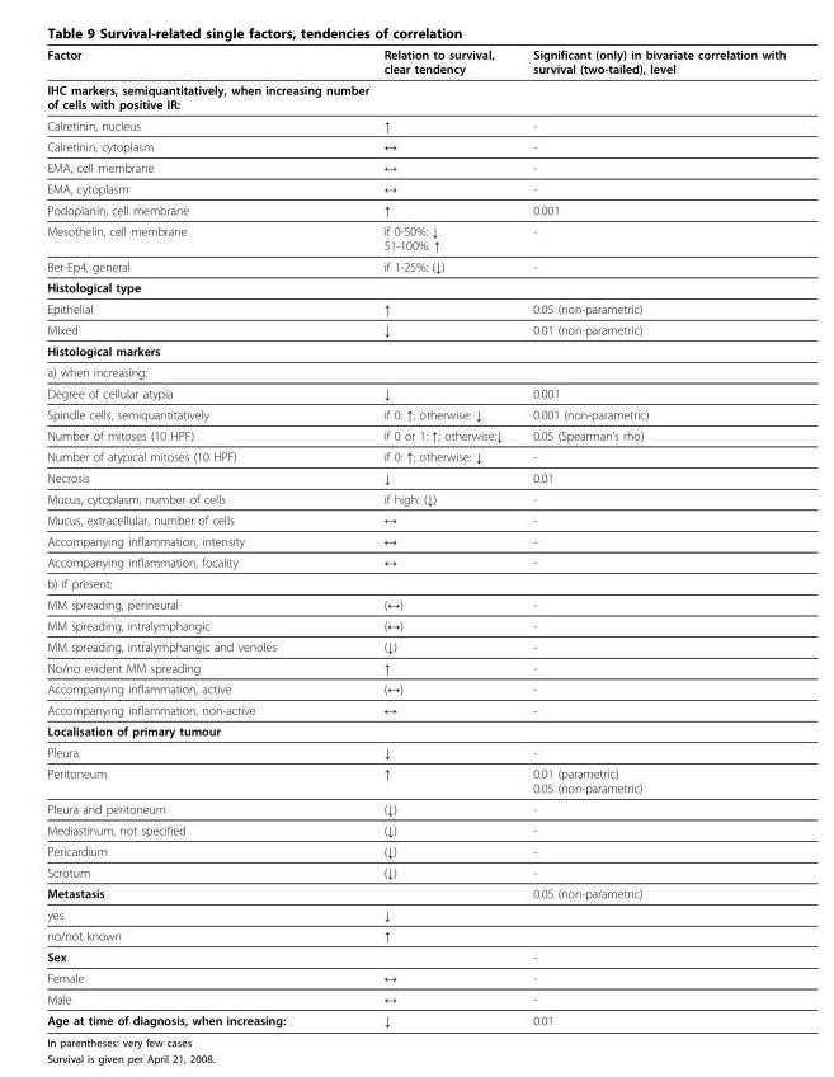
<table><thead><tr><td>Factor</td><td>Relation to survival, clear tendency</td><td>Significant (only) in bivariate correlation with survival (two-tailed), level</td></tr></thead><tbody><tr><td colspan="3">IHC markers, semiquantitatively, when increasing number of cells with positive IR:</td></tr><tr><td>Calretinin, nucleus</td><td>↑</td><td>-</td></tr><tr><td>Calretinin, cytoplasm</td><td>↔</td><td>-</td></tr><tr><td>EMA, cell membrane</td><td>↔</td><td>-</td></tr><tr><td>EMA, cytoplasm</td><td>↔</td><td>-</td></tr><tr><td>Podoplanin, cell membrane</td><td>↑</td><td>0.001</td></tr><tr><td>Mesothelin, cell membrane</td><td>if 0-50%: ↓ 51-100%: ↑</td><td>-</td></tr><tr><td>Ber-Ep4, general</td><td>if 1-25%: (↓)</td><td>-</td></tr><tr><td colspan="3">Histological type</td></tr><tr><td>Epithelial</td><td>↑</td><td>0.05 (non-parametric)</td></tr><tr><td>Mixed</td><td>↓</td><td>0.01 (non-parametric)</td></tr><tr><td colspan="3">Histological markers</td></tr><tr><td colspan="3">a) when increasing:</td></tr><tr><td>Degree of cellular atypia</td><td>↓</td><td>0.001</td></tr><tr><td>Spindle cells, semiquantitatively</td><td>if 0: ↑; otherwise: ↓</td><td>0.001 (non-parametric)</td></tr><tr><td>Number of mitoses (10 HPF)</td><td>if 0 or 1: ↑; otherwise:↓</td><td>0.05 (Spearman’s rho)</td></tr><tr><td>Number of atypical mitoses (10 HPF)</td><td>if 0: ↑; otherwise: ↓</td><td>-</td></tr><tr><td>Necrosis</td><td>↓</td><td>0.01</td></tr><tr><td>Mucus, cytoplasm, number of cells</td><td>if high: (↓)</td><td>-</td></tr><tr><td>Mucus, extracellular, number of cells</td><td>↔</td><td>-</td></tr><tr><td>Accompanying inflammation, intensity</td><td>↔</td><td>-</td></tr><tr><td>Accompanying inflammation, focality</td><td>↔</td><td>-</td></tr><tr><td colspan="3">b) if present:</td></tr><tr><td>MM spreading, perineural</td><td>(↔)</td><td>-</td></tr><tr><td>MM spreading, intralymphangic</td><td>(↔)</td><td>-</td></tr><tr><td>MM spreading, intralymphangic and venoles</td><td>(↓)</td><td>-</td></tr><tr><td>No/no evident MM spreading</td><td>↑</td><td>-</td></tr><tr><td>Accompanying inflammation, active</td><td>(↔)</td><td>-</td></tr><tr><td>Accompanying inflammation, non-active</td><td>↔</td><td>-</td></tr><tr><td colspan="3">Localisation of primary tumour</td></tr><tr><td>Pleura</td><td>↓</td><td>-</td></tr><tr><td>Peritoneum</td><td>↑</td><td>0.01 (parametric) 0.05 (non-parametric)</td></tr><tr><td>Pleura and peritoneum</td><td>(↓)</td><td>-</td></tr><tr><td>Mediastinum, not specified</td><td>(↓)</td><td>-</td></tr><tr><td>Pericardium</td><td>(↓)</td><td>-</td></tr><tr><td>Scrotum</td><td>(↓)</td><td>-</td></tr><tr><td>Metastasis</td><td></td><td>0.05 (non-parametric)</td></tr><tr><td>yes</td><td>↓</td><td></td></tr><tr><td>no/not known</td><td>↑</td><td></td></tr><tr><td>Sex</td><td></td><td>-</td></tr><tr><td>Female</td><td>↔</td><td>-</td></tr><tr><td>Male</td><td>↔</td><td>-</td></tr><tr><td>Age at time of diagnosis, when increasing:</td><td>↓</td><td>0.01</td></tr></tbody></table>